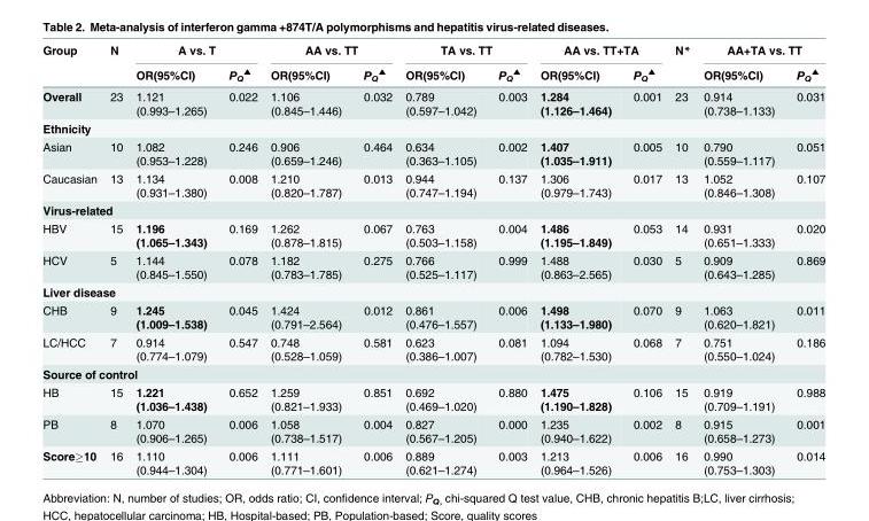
<table><thead><tr><td rowspan="2">Group</td><td rowspan="2">N</td><td colspan="2">A vs. T</td><td colspan="2">AA vs. TT</td><td colspan="2">TA vs. TT</td><td colspan="2">AA vs. TT+TA</td><td rowspan="2">N*</td><td colspan="2">AA+TA vs. TT</td></tr><tr><td>OR(95%CI)</td><td>P<sub>Q</sub> <sup>▲</sup></td><td>OR(95%CI)</td><td>P<sub>Q</sub> <sup>▲</sup></td><td>OR(95%CI)</td><td>P<sub>Q</sub> <sup>▲</sup></td><td>OR(95%CI)</td><td>P<sub>Q</sub> <sup>▲</sup></td><td>OR(95%CI)</td><td>P<sub>Q</sub> <sup>▲</sup></td></tr></thead><tbody><tr><td>Overall</td><td>23</td><td>1.121 (0.993–1.265)</td><td>0.022</td><td>1.106 (0.845–1.446)</td><td>0.032</td><td>0.789 (0.597–1.042)</td><td>0.003</td><td>1.284 (1.126–1.464)</td><td>0.001</td><td>23</td><td>0.914 (0.738–1.133)</td><td>0.031</td></tr><tr><td colspan="13">Ethnicity</td></tr><tr><td>Asian</td><td>10</td><td>1.082 (0.953–1.228)</td><td>0.246</td><td>0.906 (0.659–1.246)</td><td>0.464</td><td>0.634 (0.363–1.105)</td><td>0.002</td><td>1.407 (1.035–1.911)</td><td>0.005</td><td>10</td><td>0.790 (0.559–1.117)</td><td>0.051</td></tr><tr><td>Caucasian</td><td>13</td><td>1.134 (0.931–1.380)</td><td>0.008</td><td>1.210 (0.820–1.787)</td><td>0.013</td><td>0.944 (0.747–1.194)</td><td>0.137</td><td>1.306 (0.979–1.743)</td><td>0.017</td><td>13</td><td>1.052 (0.846–1.308)</td><td>0.107</td></tr><tr><td colspan="13">Virus-related</td></tr><tr><td>HBV</td><td>15</td><td>1.196 (1.065–1.343)</td><td>0.169</td><td>1.262 (0.878–1.815)</td><td>0.067</td><td>0.763 (0.503–1.158)</td><td>0.004</td><td>1.486 (1.195–1.849)</td><td>0.053</td><td>14</td><td>0.931 (0.651–1.333)</td><td>0.020</td></tr><tr><td>HCV</td><td>5</td><td>1.144 (0.845–1.550)</td><td>0.078</td><td>1.182 (0.783–1.785)</td><td>0.275</td><td>0.766 (0.525–1.117)</td><td>0.999</td><td>1.488 (0.863–2.565)</td><td>0.030</td><td>5</td><td>0.909 (0.643–1.285)</td><td>0.869</td></tr><tr><td colspan="13">Liver disease</td></tr><tr><td>CHB</td><td>9</td><td>1.245 (1.009–1.538)</td><td>0.045</td><td>1.424 (0.791–2.564)</td><td>0.012</td><td>0.861 (0.476–1.557)</td><td>0.006</td><td>1.498 (1.133–1.980)</td><td>0.070</td><td>9</td><td>1.063 (0.620–1.821)</td><td>0.011</td></tr><tr><td>LC/HCC</td><td>7</td><td>0.914 (0.774–1.079)</td><td>0.547</td><td>0.748 (0.528–1.059)</td><td>0.581</td><td>0.623 (0.386–1.007)</td><td>0.081</td><td>1.094 (0.782–1.530)</td><td>0.068</td><td>7</td><td>0.751 (0.550–1.024)</td><td>0.186</td></tr><tr><td colspan="13">Source of control</td></tr><tr><td>HB</td><td>15</td><td>1.221 (1.036–1.438)</td><td>0.652</td><td>1.259 (0.821–1.933)</td><td>0.851</td><td>0.692 (0.469–1.020)</td><td>0.880</td><td>1.475 (1.190–1.828)</td><td>0.106</td><td>15</td><td>0.919 (0.709–1.191)</td><td>0.988</td></tr><tr><td>PB</td><td>8</td><td>1.070 (0.906–1.265)</td><td>0.006</td><td>1.058 (0.738–1.517)</td><td>0.004</td><td>0.827 (0.567–1.205)</td><td>0.000</td><td>1.235 (0.940–1.622)</td><td>0.002</td><td>8</td><td>0.915 (0.658–1.273)</td><td>0.001</td></tr><tr><td>Score≥10</td><td>16</td><td>1.110 (0.944–1.304)</td><td>0.006</td><td>1.111 (0.771–1.601)</td><td>0.006</td><td>0.889 (0.621–1.274)</td><td>0.003</td><td>1.213 (0.964–1.526)</td><td>0.006</td><td>16</td><td>0.990 (0.753–1.303)</td><td>0.014</td></tr></tbody></table>